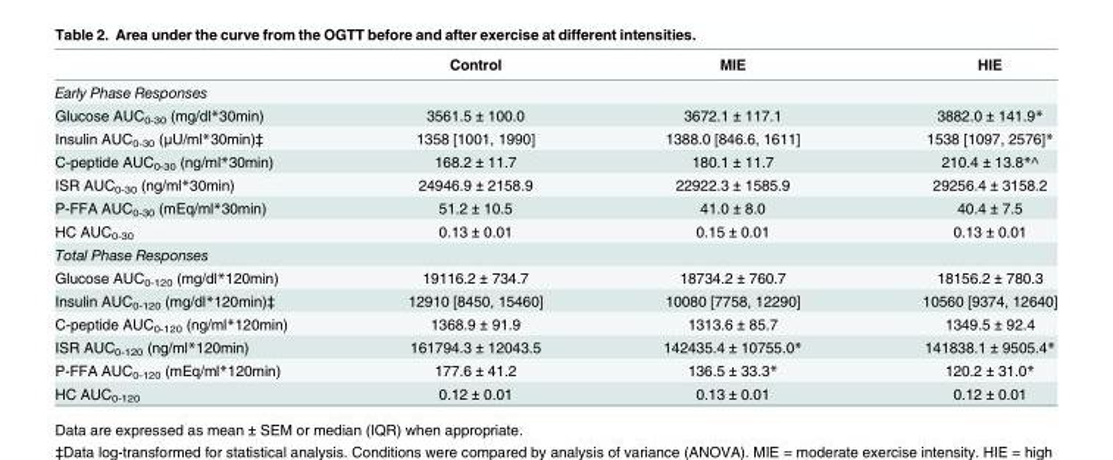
<table><thead><tr><td></td><td>Control</td><td>MIE</td><td>HIE</td></tr></thead><tbody><tr><td colspan="4">Early Phase Responses</td></tr><tr><td>Glucose AUC<sub>0-30</sub> (mg/dl*30min)</td><td>3561.5 ± 100.0</td><td>3672.1 ± 117.1</td><td>3882.0 ± 141.9*</td></tr><tr><td>Insulin AUC<sub>0-30</sub> (μU/ml*30min)‡</td><td>1358 [1001, 1990]</td><td>1388.0 [846.6, 1611]</td><td>1538 [1097, 2576]*</td></tr><tr><td>C-peptide AUC<sub>0-30</sub> (ng/ml*30min)</td><td>168.2 ± 11.7</td><td>180.1 ± 11.7</td><td>210.4 ± 13.8*^</td></tr><tr><td>ISR AUC<sub>0-30</sub> (ng/ml*30min)</td><td>24946.9 ± 2158.9</td><td>22922.3 ± 1585.9</td><td>29256.4 ± 3158.2</td></tr><tr><td>P-FFA AUC<sub>0-30</sub> (mEq/ml*30min)</td><td>51.2 ± 10.5</td><td>41.0 ± 8.0</td><td>40.4 ± 7.5</td></tr><tr><td>HC AUC<sub>0-30</sub></td><td>0.13 ± 0.01</td><td>0.15 ± 0.01</td><td>0.13 ± 0.01</td></tr><tr><td colspan="4">Total Phase Responses</td></tr><tr><td>Glucose AUC<sub>0-120</sub> (mg/dl*120min)</td><td>19116.2 ± 734.7</td><td>18734.2 ± 760.7</td><td>18156.2 ± 780.3</td></tr><tr><td>Insulin AUC<sub>0-120</sub> (mg/dl*120min)‡</td><td>12910 [8450, 15460]</td><td>10080 [7758, 12290]</td><td>10560 [9374, 12640]</td></tr><tr><td>C-peptide AUC<sub>0-120</sub> (ng/ml*120min)</td><td>1368.9 ± 91.9</td><td>1313.6 ± 85.7</td><td>1349.5 ± 92.4</td></tr><tr><td>ISR AUC<sub>0-120</sub> (ng/ml*120min)</td><td>161794.3 ± 12043.5</td><td>142435.4 ± 10755.0*</td><td>141838.1 ± 9505.4*</td></tr><tr><td>P-FFA AUC<sub>0-120</sub> (mEq/ml*120min)</td><td>177.6 ± 41.2</td><td>136.5 ± 33.3*</td><td>120.2 ± 31.0*</td></tr><tr><td>HC AUC<sub>0-120</sub></td><td>0.12 ± 0.01</td><td>0.13 ± 0.01</td><td>0.12 ± 0.01</td></tr></tbody></table>